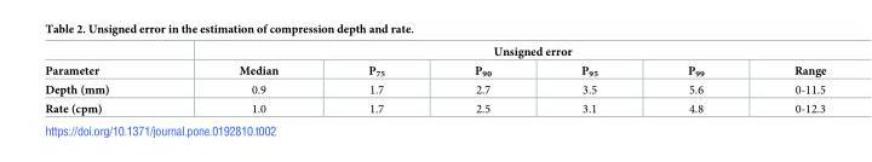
<table><thead><tr><td rowspan="2">Parameter</td><td colspan="6">Unsigned error</td></tr><tr><td>Median</td><td>P<sub>75</sub></td><td>P<sub>90</sub></td><td>P<sub>95</sub></td><td>P<sub>99</sub></td><td>Range</td></tr></thead><tbody><tr><td>Depth (mm)</td><td>0.9</td><td>1.7</td><td>2.7</td><td>3.5</td><td>5.6</td><td>0-11.5</td></tr><tr><td>Rate (cpm)</td><td>1.0</td><td>1.7</td><td>2.5</td><td>3.1</td><td>4.8</td><td>0-12.3</td></tr></tbody></table>